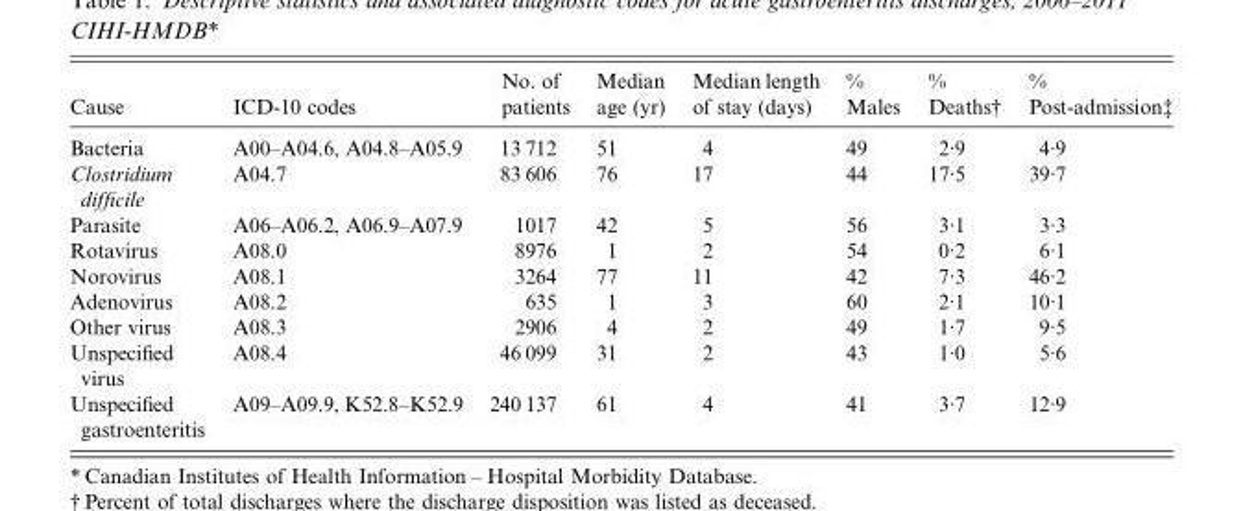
<table><thead><tr><td>Cause</td><td>ICD-10 codes</td><td>No. of patients</td><td>Median age (yr)</td><td>Median length of stay (days)</td><td>% Males</td><td>% Deaths†</td><td>% Post-admission‡</td></tr></thead><tbody><tr><td>Bacteria</td><td>A00–A04.6, A04.8–A05.9</td><td>13 712</td><td>51</td><td>4</td><td>49</td><td>2·9</td><td>4·9</td></tr><tr><td>Clostridium difficile</td><td>A04.7</td><td>83 606</td><td>76</td><td>17</td><td>44</td><td>17·5</td><td>39·7</td></tr><tr><td>Parasite</td><td>A06–A06.2, A06.9–A07.9</td><td>1017</td><td>42</td><td>5</td><td>56</td><td>3·1</td><td>3·3</td></tr><tr><td>Rotavirus</td><td>A08.0</td><td>8976</td><td>1</td><td>2</td><td>54</td><td>0·2</td><td>6·1</td></tr><tr><td>Norovirus</td><td>A08.1</td><td>3264</td><td>77</td><td>11</td><td>42</td><td>7·3</td><td>46·2</td></tr><tr><td>Adenovirus</td><td>A08.2</td><td>635</td><td>1</td><td>3</td><td>60</td><td>2·1</td><td>10·1</td></tr><tr><td>Other virus</td><td>A08.3</td><td>2906</td><td>4</td><td>2</td><td>49</td><td>1·7</td><td>9·5</td></tr><tr><td>Unspecified virus</td><td>A08.4</td><td>46 099</td><td>31</td><td>2</td><td>43</td><td>1·0</td><td>5·6</td></tr><tr><td>Unspecified gastroenteritis</td><td>A09–A09.9, K52.8–K52.9</td><td>240 137</td><td>61</td><td>4</td><td>41</td><td>3·7</td><td>12·9</td></tr></tbody></table>